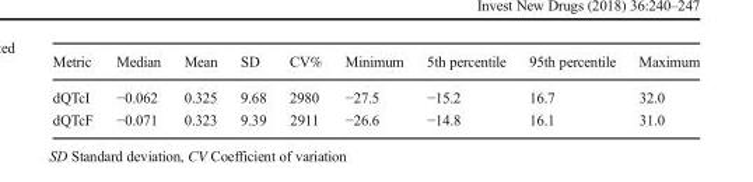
<table><thead><tr><td>Metric</td><td>Median</td><td>Mean</td><td>SD</td><td>CV%</td><td>Minimum</td><td>5th percentile</td><td>95th percentile</td><td>Maximum</td></tr></thead><tbody><tr><td>dQTcI</td><td>−0.062</td><td>0.325</td><td>9.68</td><td>2980</td><td>−27.5</td><td>−15.2</td><td>16.7</td><td>32.0</td></tr><tr><td>dQTcF</td><td>−0.071</td><td>0.323</td><td>9.39</td><td>2911</td><td>−26.6</td><td>−14.8</td><td>16.1</td><td>31.0</td></tr></tbody></table>